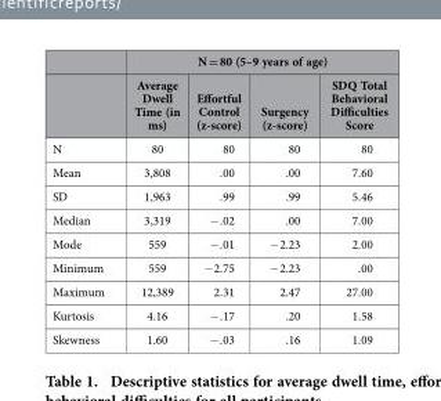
<table><thead><tr><td rowspan="2"></td><td colspan="4">N = 80 (5–9 years of age)</td></tr><tr><td>Average Dwell Time (in ms)</td><td>Effortful Control (z-score)</td><td>Surgency (z-score)</td><td>SDQ Total Behavioral Difficulties Score</td></tr></thead><tbody><tr><td>N</td><td>80</td><td>80</td><td>80</td><td>80</td></tr><tr><td>Mean</td><td>3,808</td><td>.00</td><td>.00</td><td>7.60</td></tr><tr><td>SD</td><td>1,963</td><td>.99</td><td>.99</td><td>5.46</td></tr><tr><td>Median</td><td>3,319</td><td>− .02</td><td>.00</td><td>7.00</td></tr><tr><td>Mode</td><td>559</td><td>− .01</td><td>− 2.23</td><td>2.00</td></tr><tr><td>Minimum</td><td>559</td><td>− 2.75</td><td>− 2.23</td><td>.00</td></tr><tr><td>Maximum</td><td>12,389</td><td>2.31</td><td>2.47</td><td>27.00</td></tr><tr><td>Kurtosis</td><td>4.16</td><td>− .17</td><td>.20</td><td>1.58</td></tr><tr><td>Skewness</td><td>1.60</td><td>− .03</td><td>.16</td><td>1.09</td></tr></tbody></table>